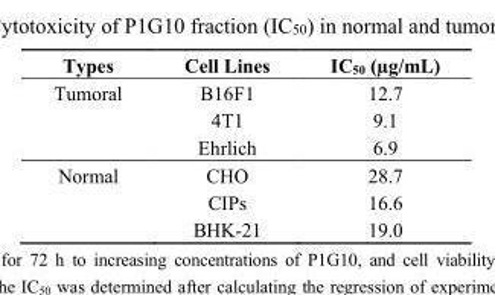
<table><thead><tr><td>Types</td><td>Cell Lines</td><td>IC<sub>50</sub> (µg/mL)</td></tr></thead><tbody><tr><td rowspan="3">Tumoral</td><td>B16F1</td><td>12.7</td></tr><tr><td>4T1</td><td>9.1</td></tr><tr><td>Ehrlich</td><td>6.9</td></tr><tr><td rowspan="3">Normal</td><td>CHO</td><td>28.7</td></tr><tr><td>CIPs</td><td>16.6</td></tr><tr><td>BHK-21</td><td>19.0</td></tr></tbody></table>